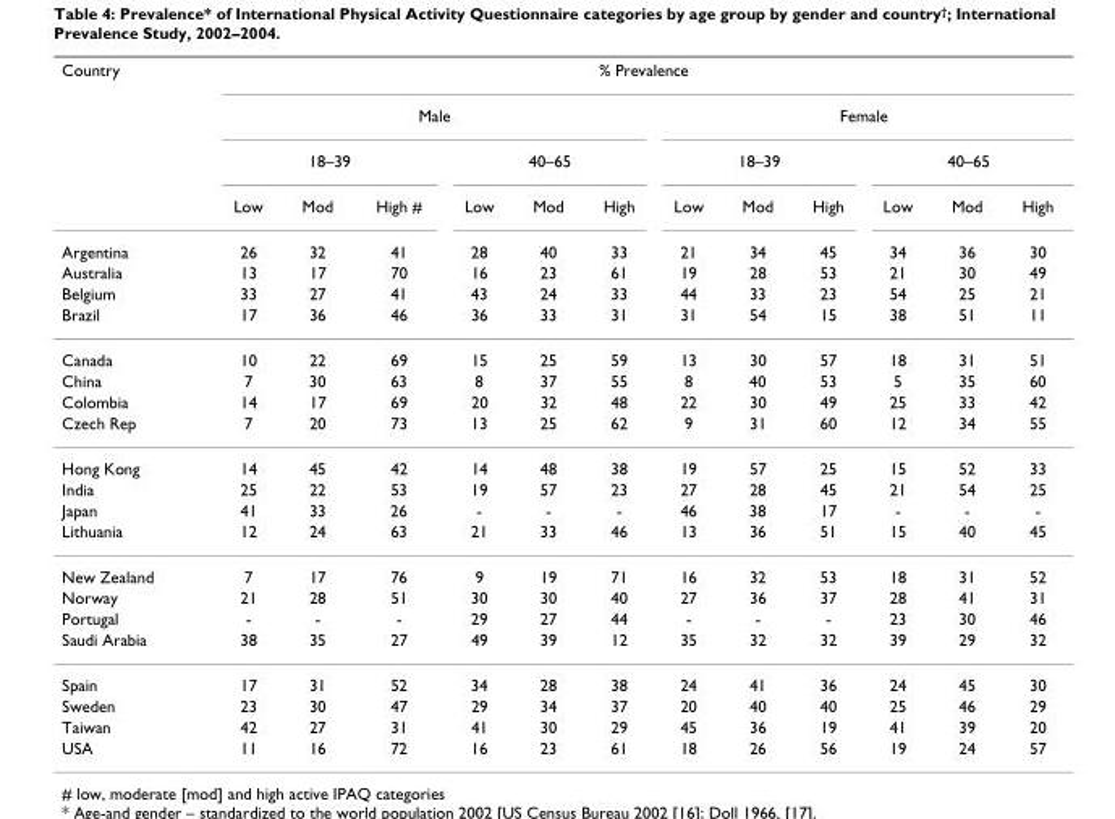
<table><thead><tr><td rowspan="8">Country Argentina Australia Belgium Brazil</td><td colspan="12">% Prevalence</td></tr><tr><td colspan="6">Male</td><td colspan="6">Female</td></tr><tr><td colspan="3">18–39</td><td colspan="3">40–65</td><td colspan="3">18–39</td><td colspan="3">40–65</td></tr><tr><td rowspan="5">Low 26 13 33 17</td><td rowspan="5">Mod 32 17 27 36</td><td rowspan="5">High # 41 70 41 46</td><td rowspan="5">Low 28 16 43 36</td><td rowspan="5">Mod 40 23 24 33</td><td rowspan="5">High 33 61 33 31</td><td rowspan="5">Low 21 19 44 31</td><td rowspan="5">Mod 34 28 33 54</td><td rowspan="5">High 45 53 23 15</td><td rowspan="5">Low 34 21 54 38</td><td rowspan="5">Mod 36 30 25 51</td><td rowspan="5">High 30 49 21 11</td></tr><tr></tr><tr></tr><tr></tr><tr></tr></thead><tbody><tr><td>Canada</td><td>10</td><td>22</td><td>69</td><td>15</td><td>25</td><td>59</td><td>13</td><td>30</td><td>57</td><td>18</td><td>31</td><td>51</td></tr><tr><td>China</td><td>7</td><td>30</td><td>63</td><td>8</td><td>37</td><td>55</td><td>8</td><td>40</td><td>53</td><td>5</td><td>35</td><td>60</td></tr><tr><td>Colombia</td><td>14</td><td>17</td><td>69</td><td>20</td><td>32</td><td>48</td><td>22</td><td>30</td><td>49</td><td>25</td><td>33</td><td>42</td></tr><tr><td>Czech Rep</td><td>7</td><td>20</td><td>73</td><td>13</td><td>25</td><td>62</td><td>9</td><td>31</td><td>60</td><td>12</td><td>34</td><td>55</td></tr><tr><td>Hong Kong</td><td>14</td><td>45</td><td>42</td><td>14</td><td>48</td><td>38</td><td>19</td><td>57</td><td>25</td><td>15</td><td>52</td><td>33</td></tr><tr><td>India</td><td>25</td><td>22</td><td>53</td><td>19</td><td>57</td><td>23</td><td>27</td><td>28</td><td>45</td><td>21</td><td>54</td><td>25</td></tr><tr><td>Japan</td><td>41</td><td>33</td><td>26</td><td>-</td><td>-</td><td>-</td><td>46</td><td>38</td><td>17</td><td>-</td><td>-</td><td>-</td></tr><tr><td>Lithuania</td><td>12</td><td>24</td><td>63</td><td>21</td><td>33</td><td>46</td><td>13</td><td>36</td><td>51</td><td>15</td><td>40</td><td>45</td></tr><tr><td>New Zealand</td><td>7</td><td>17</td><td>76</td><td>9</td><td>19</td><td>71</td><td>16</td><td>32</td><td>53</td><td>18</td><td>31</td><td>52</td></tr><tr><td>Norway</td><td>21</td><td>28</td><td>51</td><td>30</td><td>30</td><td>40</td><td>27</td><td>36</td><td>37</td><td>28</td><td>41</td><td>31</td></tr><tr><td>Portugal</td><td>-</td><td>-</td><td>-</td><td>29</td><td>27</td><td>44</td><td>-</td><td>-</td><td>-</td><td>23</td><td>30</td><td>46</td></tr><tr><td>Saudi Arabia</td><td>38</td><td>35</td><td>27</td><td>49</td><td>39</td><td>12</td><td>35</td><td>32</td><td>32</td><td>39</td><td>29</td><td>32</td></tr><tr><td>Spain</td><td>17</td><td>31</td><td>52</td><td>34</td><td>28</td><td>38</td><td>24</td><td>41</td><td>36</td><td>24</td><td>45</td><td>30</td></tr><tr><td>Sweden</td><td>23</td><td>30</td><td>47</td><td>29</td><td>34</td><td>37</td><td>20</td><td>40</td><td>40</td><td>25</td><td>46</td><td>29</td></tr><tr><td>Taiwan</td><td>42</td><td>27</td><td>31</td><td>41</td><td>30</td><td>29</td><td>45</td><td>36</td><td>19</td><td>41</td><td>39</td><td>20</td></tr><tr><td>USA</td><td>11</td><td>16</td><td>72</td><td>16</td><td>23</td><td>61</td><td>18</td><td>26</td><td>56</td><td>19</td><td>24</td><td>57</td></tr></tbody></table>